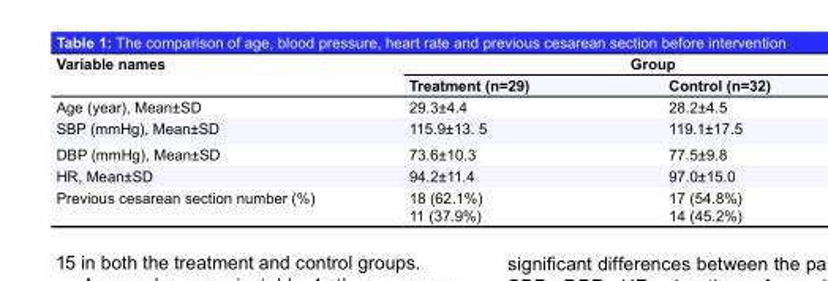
<table><thead><tr><td rowspan="2">Variable names</td><td colspan="2">Group</td></tr><tr><td>Treatment (n=29)</td><td>Control (n=32)</td></tr></thead><tbody><tr><td>Age (year), Mean±SD</td><td>29.3±4.4</td><td>28.2±4.5</td></tr><tr><td>SBP (mmHg), Mean±SD</td><td>115.9±13. 5</td><td>119.1±17.5</td></tr><tr><td>DBP (mmHg), Mean±SD</td><td>73.6±10.3</td><td>77.5±9.8</td></tr><tr><td>HR, Mean±SD</td><td>94.2±11.4</td><td>97.0±15.0</td></tr><tr><td>Previous cesarean section number (%)</td><td>18 (62.1%) 11 (37.9%)</td><td>17 (54.8%) 14 (45.2%)</td></tr></tbody></table>